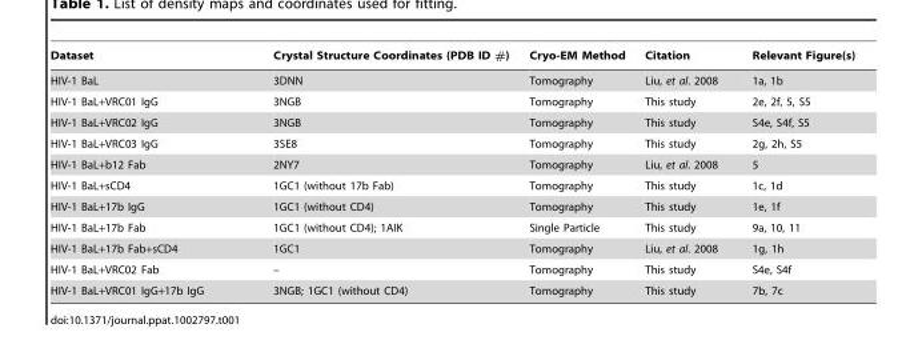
<table><thead><tr><td>Dataset</td><td>Crystal Structure Coordinates (PDB ID #)</td><td>Cryo-EM Method</td><td>Citation</td><td>Relevant Figure(s)</td></tr></thead><tbody><tr><td>HIV-1 BaL</td><td>3DNN</td><td>Tomography</td><td>Liu, et al. 2008</td><td>1a, 1b</td></tr><tr><td>HIV-1 BaL+VRC01 IgG</td><td>3NGB</td><td>Tomography</td><td>This study</td><td>2e, 2f, 5, S5</td></tr><tr><td>HIV-1 BaL+VRC02 IgG</td><td>3NGB</td><td>Tomography</td><td>This study</td><td>S4e, S4f, S5</td></tr><tr><td>HIV-1 BaL+VRC03 IgG</td><td>3SE8</td><td>Tomography</td><td>This study</td><td>2g, 2h, S5</td></tr><tr><td>HIV-1 BaL+b12 Fab</td><td>2NY7</td><td>Tomography</td><td>Liu, et al. 2008</td><td>5</td></tr><tr><td>HIV-1 BaL+sCD4</td><td>1GC1 (without 17b Fab)</td><td>Tomography</td><td>This study</td><td>1c, 1d</td></tr><tr><td>HIV-1 BaL+17b IgG</td><td>1GC1 (without CD4)</td><td>Tomography</td><td>This study</td><td>1e, 1f</td></tr><tr><td>HIV-1 BaL+17b Fab</td><td>1GC1 (without CD4); 1AIK</td><td>Single Particle</td><td>This study</td><td>9a, 10, 11</td></tr><tr><td>HIV-1 BaL+17b Fab+sCD4</td><td>1GC1</td><td>Tomography</td><td>Liu, et al. 2008</td><td>1g, 1h</td></tr><tr><td>HIV-1 BaL+VRC02 Fab</td><td>–</td><td>Tomography</td><td>This study</td><td>S4e, S4f</td></tr><tr><td>HIV-1 BaL+VRC01 IgG+17b IgG</td><td>3NGB; 1GC1 (without CD4)</td><td>Tomography</td><td>This study</td><td>7b, 7c</td></tr></tbody></table>